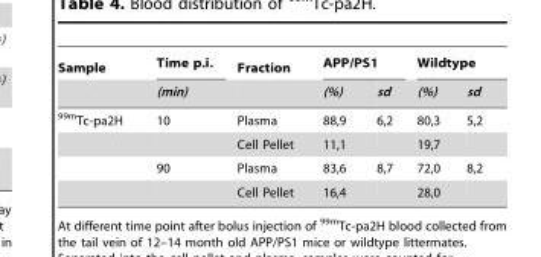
<table><thead><tr><td rowspan="2">Sample</td><td rowspan="2">Time p.i. (min)</td><td rowspan="2">Fraction</td><td colspan="2">APP/PS1</td><td colspan="2">Wildtype</td></tr><tr><td>(%)</td><td>sd</td><td>(%)</td><td>sd</td></tr></thead><tbody><tr><td rowspan="4"><sup>99m</sup>Tc-pa2H</td><td>10</td><td>Plasma</td><td>88,9</td><td>6,2</td><td>80,3</td><td>5,2</td></tr><tr><td></td><td>Cell Pellet</td><td>11,1</td><td></td><td>19,7</td><td></td></tr><tr><td>90</td><td>Plasma</td><td>83,6</td><td>8,7</td><td>72,0</td><td>8,2</td></tr><tr><td></td><td>Cell Pellet</td><td>16,4</td><td></td><td>28,0</td><td></td></tr></tbody></table>